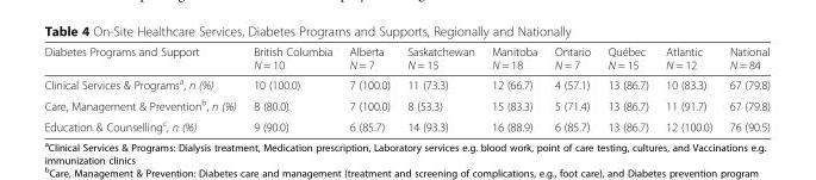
<table><thead><tr><td>Diabetes Programs and Support</td><td>British Columbia N = 10</td><td>Alberta N = 7</td><td>Saskatchewan N = 15</td><td>Manitoba N = 18</td><td>Ontario N = 7</td><td>Québec N = 15</td><td>Atlantic N = 12</td><td>National N = 84</td></tr></thead><tbody><tr><td>Clinical Services &amp; Programs<sup>a</sup>, n (%)</td><td>10 (100.0)</td><td>7 (100.0)</td><td>11 (73.3)</td><td>12 (66.7)</td><td>4 (57.1)</td><td>13 (86.7)</td><td>10 (83.3)</td><td>67 (79.8)</td></tr><tr><td>Care, Management &amp; Prevention<sup>b</sup>, n (%)</td><td>8 (80.0)</td><td>7 (100.0)</td><td>8 (53.3)</td><td>15 (83.3)</td><td>5 (71.4)</td><td>13 (86.7)</td><td>11 (91.7)</td><td>67 (79.8)</td></tr><tr><td>Education &amp; Counselling<sup>c</sup>, n (%)</td><td>9 (90.0)</td><td>6 (85.7)</td><td>14 (93.3)</td><td>16 (88.9)</td><td>6 (85.7)</td><td>13 (86.7)</td><td>12 (100.0)</td><td>76 (90.5)</td></tr></tbody></table>